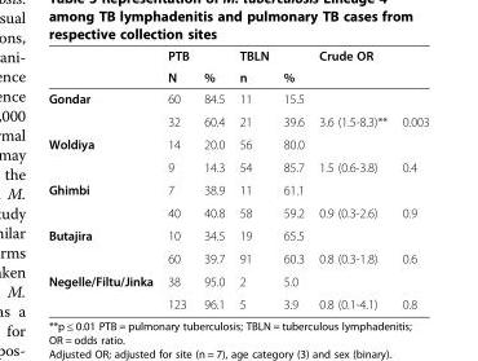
<table><thead><tr><td rowspan="2"></td><td rowspan="2">PTB N</td><td rowspan="2">%</td><td rowspan="2">TBLN n</td><td rowspan="2">%</td><td rowspan="2">Crude OR</td><td rowspan="2"></td></tr><tr></tr></thead><tbody><tr><td rowspan="2">Gondar</td><td>60</td><td>84.5</td><td>11</td><td>15.5</td><td></td><td></td></tr><tr><td>32</td><td>60.4</td><td>21</td><td>39.6</td><td>3.6 (1.5-8.3)**</td><td>0.003</td></tr><tr><td rowspan="2">Woldiya</td><td>14</td><td>20.0</td><td>56</td><td>80.0</td><td></td><td></td></tr><tr><td>9</td><td>14.3</td><td>54</td><td>85.7</td><td>1.5 (0.6-3.8)</td><td>0.4</td></tr><tr><td rowspan="2">Ghimbi</td><td>7</td><td>38.9</td><td>11</td><td>61.1</td><td></td><td></td></tr><tr><td>40</td><td>40.8</td><td>58</td><td>59.2</td><td>0.9 (0.3-2.6)</td><td>0.9</td></tr><tr><td rowspan="2">Butajira</td><td>10</td><td>34.5</td><td>19</td><td>65.5</td><td></td><td></td></tr><tr><td>60</td><td>39.7</td><td>91</td><td>60.3</td><td>0.8 (0.3-1.8)</td><td>0.6</td></tr><tr><td rowspan="2">Negelle/Filtu/Jinka</td><td>38</td><td>95.0</td><td>2</td><td>5.0</td><td></td><td></td></tr><tr><td>123</td><td>96.1</td><td>5</td><td>3.9</td><td>0.8 (0.1-4.1)</td><td>0.8</td></tr></tbody></table>